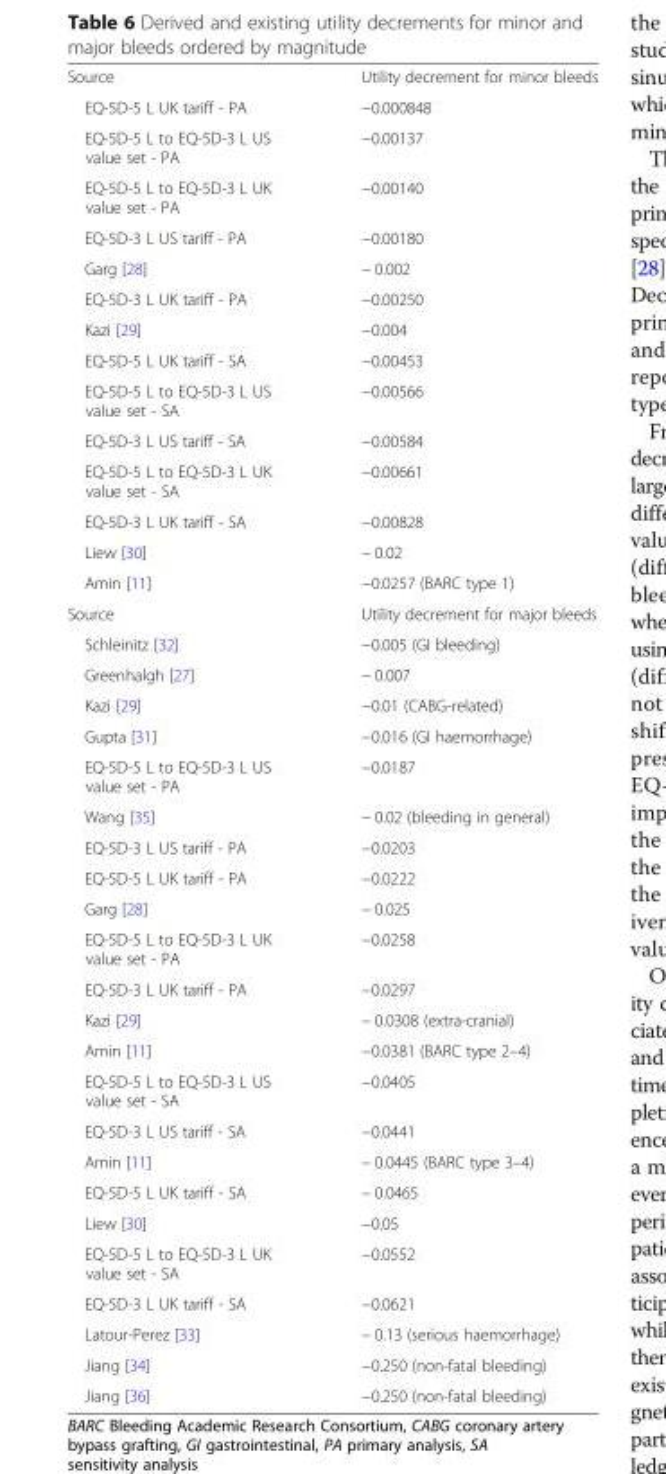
<table><tbody><tr><td>Source</td><td>Utility decrement for minor bleeds</td></tr><tr><td>EQ-5D-5 L UK tariff - PA</td><td>−0.000848</td></tr><tr><td>EQ-5D-5 L to EQ-5D-3 L US value set - PA</td><td>−0.00137</td></tr><tr><td>EQ-5D-5 L to EQ-5D-3 L UK value set - PA</td><td>−0.00140</td></tr><tr><td>EQ-5D-3 L US tariff - PA</td><td>−0.00180</td></tr><tr><td>Garg [28]</td><td>− 0.002</td></tr><tr><td>EQ-5D-3 L UK tariff - PA</td><td>−0.00250</td></tr><tr><td>Kazi [29]</td><td>−0.004</td></tr><tr><td>EQ-5D-5 L UK tariff - SA</td><td>−0.00453</td></tr><tr><td>EQ-5D-5 L to EQ-5D-3 L US value set - SA</td><td>−0.00566</td></tr><tr><td>EQ-5D-3 L US tariff - SA</td><td>−0.00584</td></tr><tr><td>EQ-5D-5 L to EQ-5D-3 L UK value set - SA</td><td>−0.00661</td></tr><tr><td>EQ-5D-3 L UK tariff - SA</td><td>−0.00828</td></tr><tr><td>Liew [30]</td><td>− 0.02</td></tr><tr><td>Amin [11]</td><td>−0.0257 (BARC type 1)</td></tr><tr><td>Source</td><td>Utility decrement for major bleeds</td></tr><tr><td>Schleinitz [32]</td><td>−0.005 (GI bleeding)</td></tr><tr><td>Greenhalgh [27]</td><td>− 0.007</td></tr><tr><td>Kazi [29]</td><td>−0.01 (CABG-related)</td></tr><tr><td>Gupta [31]</td><td>−0.016 (GI haemorrhage)</td></tr><tr><td>EQ-5D-5 L to EQ-5D-3 L US value set - PA</td><td>−0.0187</td></tr><tr><td>Wang [35]</td><td>− 0.02 (bleeding in general)</td></tr><tr><td>EQ-5D-3 L US tariff - PA</td><td>−0.0203</td></tr><tr><td>EQ-5D-5 L UK tariff - PA</td><td>−0.0222</td></tr><tr><td>Garg [28]</td><td>− 0.025</td></tr><tr><td>EQ-5D-5 L to EQ-5D-3 L UK value set - PA</td><td>−0.0258</td></tr><tr><td>EQ-5D-3 L UK tariff - PA</td><td>−0.0297</td></tr><tr><td>Kazi [29]</td><td>− 0.0308 (extra-cranial)</td></tr><tr><td>Amin [11]</td><td>−0.0381 (BARC type 2–4)</td></tr><tr><td>EQ-5D-5 L to EQ-5D-3 L US value set - SA</td><td>−0.0405</td></tr><tr><td>EQ-5D-3 L US tariff - SA</td><td>−0.0441</td></tr><tr><td>Amin [11]</td><td>− 0.0445 (BARC type 3–4)</td></tr><tr><td>EQ-5D-5 L UK tariff - SA</td><td>− 0.0465</td></tr><tr><td>Liew [30]</td><td>−0.05</td></tr><tr><td>EQ-5D-5 L to EQ-5D-3 L UK value set - SA</td><td>−0.0552</td></tr><tr><td>EQ-5D-3 L UK tariff - SA</td><td>−0.0621</td></tr><tr><td>Latour-Perez [33]</td><td>− 0.13 (serious haemorrhage)</td></tr><tr><td>Jiang [34]</td><td>−0.250 (non-fatal bleeding)</td></tr><tr><td>Jiang [36]</td><td>−0.250 (non-fatal bleeding)</td></tr></tbody></table>